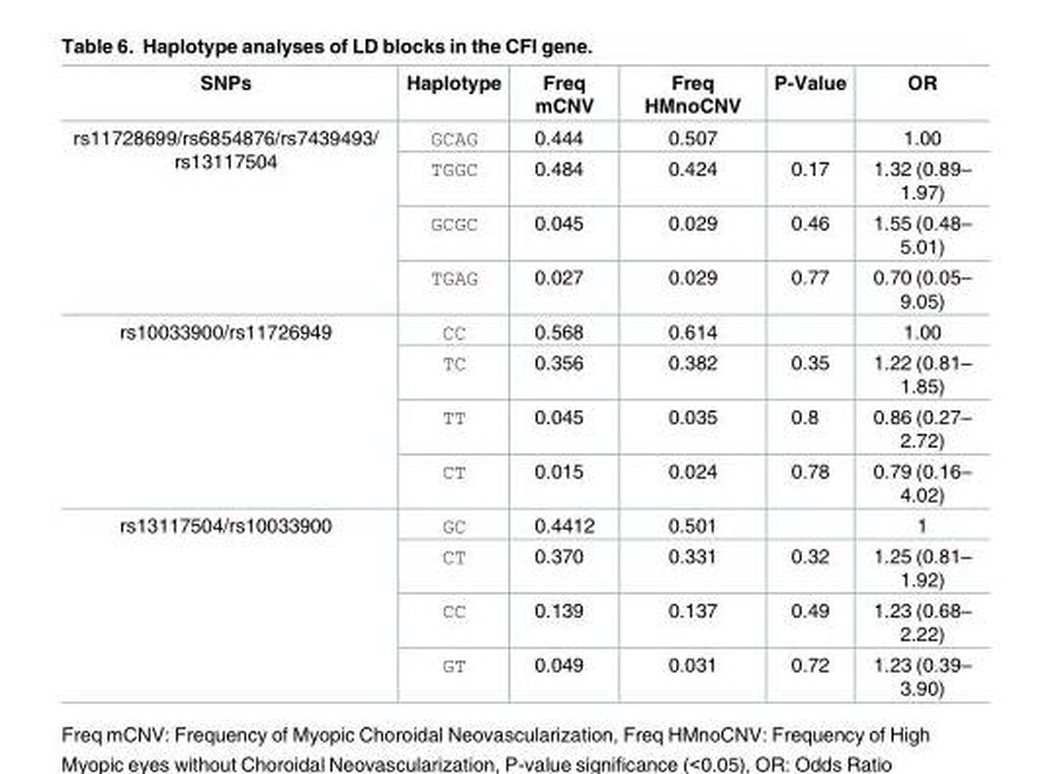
<table><thead><tr><td>SNPs</td><td>Haplotype</td><td>Freq mCNV</td><td>Freq HMnoCNV</td><td>P-Value</td><td>OR</td></tr></thead><tbody><tr><td rowspan="4">rs11728699/rs6854876/rs7439493/ rs13117504</td><td>GCAG</td><td>0.444</td><td>0.507</td><td></td><td>1.00</td></tr><tr><td>TGGC</td><td>0.484</td><td>0.424</td><td>0.17</td><td>1.32 (0.89– 1.97)</td></tr><tr><td>GCGC</td><td>0.045</td><td>0.029</td><td>0.46</td><td>1.55 (0.48– 5.01)</td></tr><tr><td>TGAG</td><td>0.027</td><td>0.029</td><td>0.77</td><td>0.70 (0.05– 9.05)</td></tr><tr><td rowspan="4">rs10033900/rs11726949</td><td>CC</td><td>0.568</td><td>0.614</td><td></td><td>1.00</td></tr><tr><td>TC</td><td>0.356</td><td>0.382</td><td>0.35</td><td>1.22 (0.81– 1.85)</td></tr><tr><td>TT</td><td>0.045</td><td>0.035</td><td>0.8</td><td>0.86 (0.27– 2.72)</td></tr><tr><td>CT</td><td>0.015</td><td>0.024</td><td>0.78</td><td>0.79 (0.16– 4.02)</td></tr><tr><td rowspan="4">rs13117504/rs10033900</td><td>GC</td><td>0.4412</td><td>0.501</td><td></td><td>1</td></tr><tr><td>CT</td><td>0.370</td><td>0.331</td><td>0.32</td><td>1.25 (0.81– 1.92)</td></tr><tr><td>CC</td><td>0.139</td><td>0.137</td><td>0.49</td><td>1.23 (0.68– 2.22)</td></tr><tr><td>GT</td><td>0.049</td><td>0.031</td><td>0.72</td><td>1.23 (0.39– 3.90)</td></tr></tbody></table>